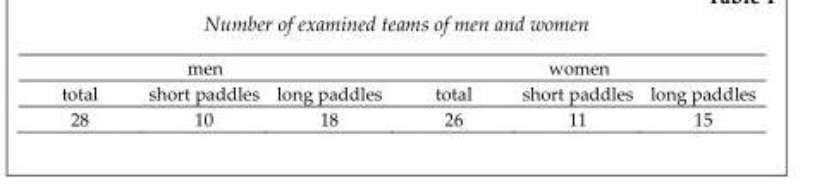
<table><thead><tr><td colspan="3">men</td><td colspan="3">women</td></tr><tr><td>total</td><td>short paddles</td><td>long paddles</td><td>total</td><td>short paddles</td><td>long paddles</td></tr></thead><tbody><tr><td>28</td><td>10</td><td>18</td><td>26</td><td>11</td><td>15</td></tr></tbody></table>